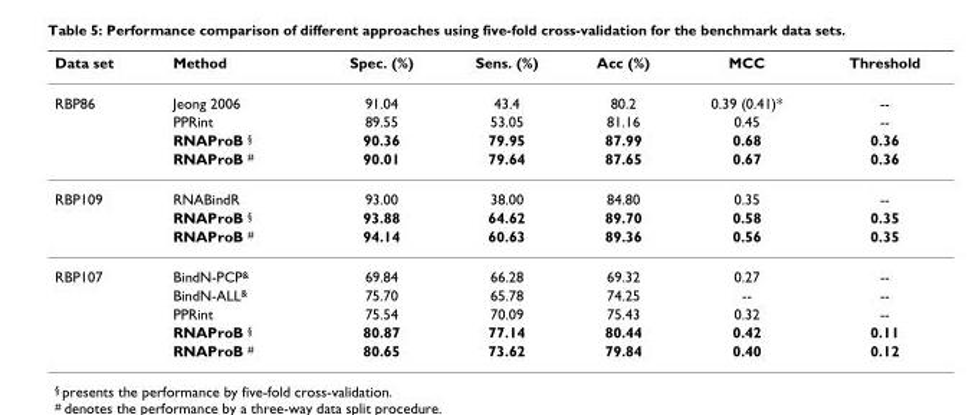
<table><thead><tr><td>Data set</td><td>Method</td><td>Spec. (%)</td><td>Sens. (%)</td><td>Acc (%)</td><td>MCC</td><td>Threshold</td></tr></thead><tbody><tr><td rowspan="4">RBP86</td><td>Jeong 2006</td><td>91.04</td><td>43.4</td><td>80.2</td><td>0.39 (0.41)*</td><td>--</td></tr><tr><td>PPRint</td><td>89.55</td><td>53.05</td><td>81.16</td><td>0.45</td><td>--</td></tr><tr><td>RNAProB §</td><td>90.36</td><td>79.95</td><td>87.99</td><td>0.68</td><td>0.36</td></tr><tr><td>RNAProB #</td><td>90.01</td><td>79.64</td><td>87.65</td><td>0.67</td><td>0.36</td></tr><tr><td rowspan="3">RBP109</td><td>RNABindR</td><td>93.00</td><td>38.00</td><td>84.80</td><td>0.35</td><td>--</td></tr><tr><td>RNAProB §</td><td>93.88</td><td>64.62</td><td>89.70</td><td>0.58</td><td>0.35</td></tr><tr><td>RNAProB #</td><td>94.14</td><td>60.63</td><td>89.36</td><td>0.56</td><td>0.35</td></tr><tr><td rowspan="5">RBP107</td><td>BindN-PCP&amp;</td><td>69.84</td><td>66.28</td><td>69.32</td><td>0.27</td><td>--</td></tr><tr><td>BindN-ALL&amp;</td><td>75.70</td><td>65.78</td><td>74.25</td><td>--</td><td>--</td></tr><tr><td>PPRint</td><td>75.54</td><td>70.09</td><td>75.43</td><td>0.32</td><td>--</td></tr><tr><td>RNAProB §</td><td>80.87</td><td>77.14</td><td>80.44</td><td>0.42</td><td>0.11</td></tr><tr><td>RNAProB #</td><td>80.65</td><td>73.62</td><td>79.84</td><td>0.40</td><td>0.12</td></tr></tbody></table>